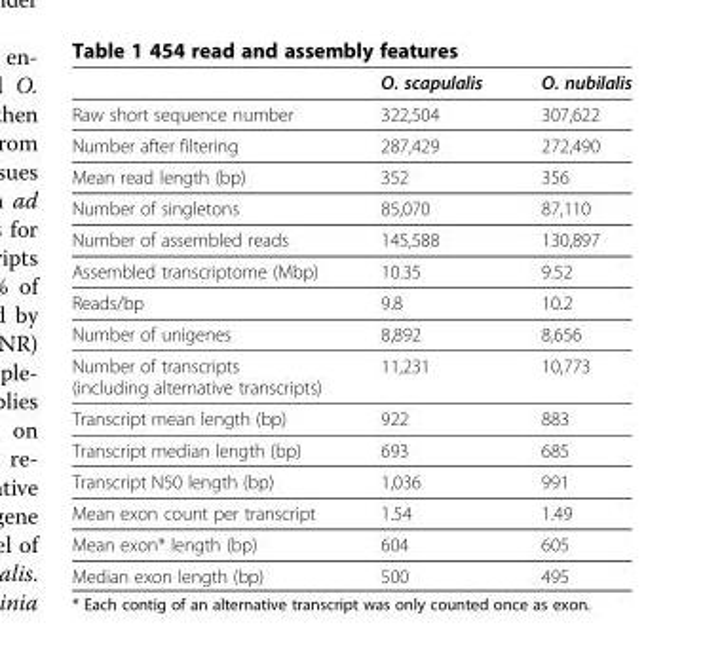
<table><thead><tr><td></td><td>O. scapulalis</td><td>O. nubilalis</td></tr></thead><tbody><tr><td>Raw short sequence number</td><td>322,504</td><td>307,622</td></tr><tr><td>Number after filtering</td><td>287,429</td><td>272,490</td></tr><tr><td>Mean read length (bp)</td><td>352</td><td>356</td></tr><tr><td>Number of singletons</td><td>85,070</td><td>87,110</td></tr><tr><td>Number of assembled reads</td><td>145,588</td><td>130,897</td></tr><tr><td>Assembled transcriptome (Mbp)</td><td>10.35</td><td>9.52</td></tr><tr><td>Reads/bp</td><td>9.8</td><td>10.2</td></tr><tr><td>Number of unigenes</td><td>8,892</td><td>8,656</td></tr><tr><td>Number of transcripts (including alternative transcripts)</td><td>11,231</td><td>10,773</td></tr><tr><td>Transcript mean length (bp)</td><td>922</td><td>883</td></tr><tr><td>Transcript median length (bp)</td><td>693</td><td>685</td></tr><tr><td>Transcript N50 length (bp)</td><td>1,036</td><td>991</td></tr><tr><td>Mean exon count per transcript</td><td>1.54</td><td>1.49</td></tr><tr><td>Mean exon* length (bp)</td><td>604</td><td>605</td></tr><tr><td>Median exon length (bp)</td><td>500</td><td>495</td></tr></tbody></table>